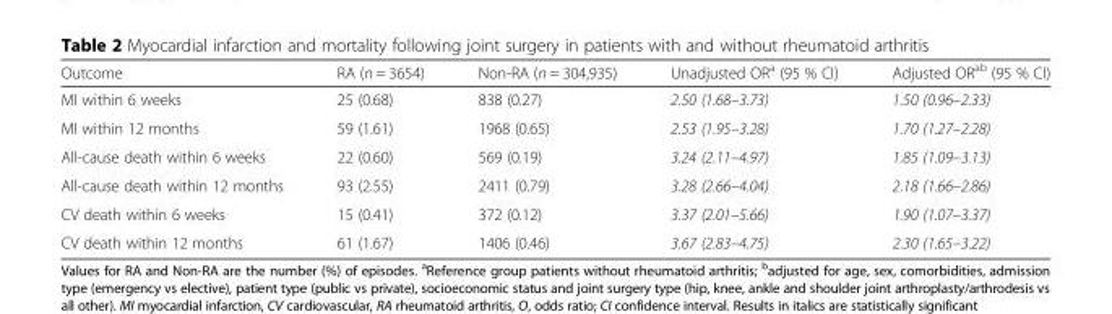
<table><thead><tr><td>Outcome</td><td>RA (n = 3654)</td><td>Non-RA (n = 304,935)</td><td>Unadjusted OR<sup>a</sup> (95 % CI)</td><td>Adjusted OR<sup>ab</sup> (95 % CI)</td></tr></thead><tbody><tr><td>MI within 6 weeks</td><td>25 (0.68)</td><td>838 (0.27)</td><td>2.50 (1.68–3.73)</td><td>1.50 (0.96–2.33)</td></tr><tr><td>MI within 12 months</td><td>59 (1.61)</td><td>1968 (0.65)</td><td>2.53 (1.95–3.28)</td><td>1.70 (1.27–2.28)</td></tr><tr><td>All-cause death within 6 weeks</td><td>22 (0.60)</td><td>569 (0.19)</td><td>3.24 (2.11–4.97)</td><td>1.85 (1.09–3.13)</td></tr><tr><td>All-cause death within 12 months</td><td>93 (2.55)</td><td>2411 (0.79)</td><td>3.28 (2.66–4.04)</td><td>2.18 (1.66–2.86)</td></tr><tr><td>CV death within 6 weeks</td><td>15 (0.41)</td><td>372 (0.12)</td><td>3.37 (2.01–5.66)</td><td>1.90 (1.07–3.37)</td></tr><tr><td>CV death within 12 months</td><td>61 (1.67)</td><td>1406 (0.46)</td><td>3.67 (2.83–4.75)</td><td>2.30 (1.65–3.22)</td></tr></tbody></table>